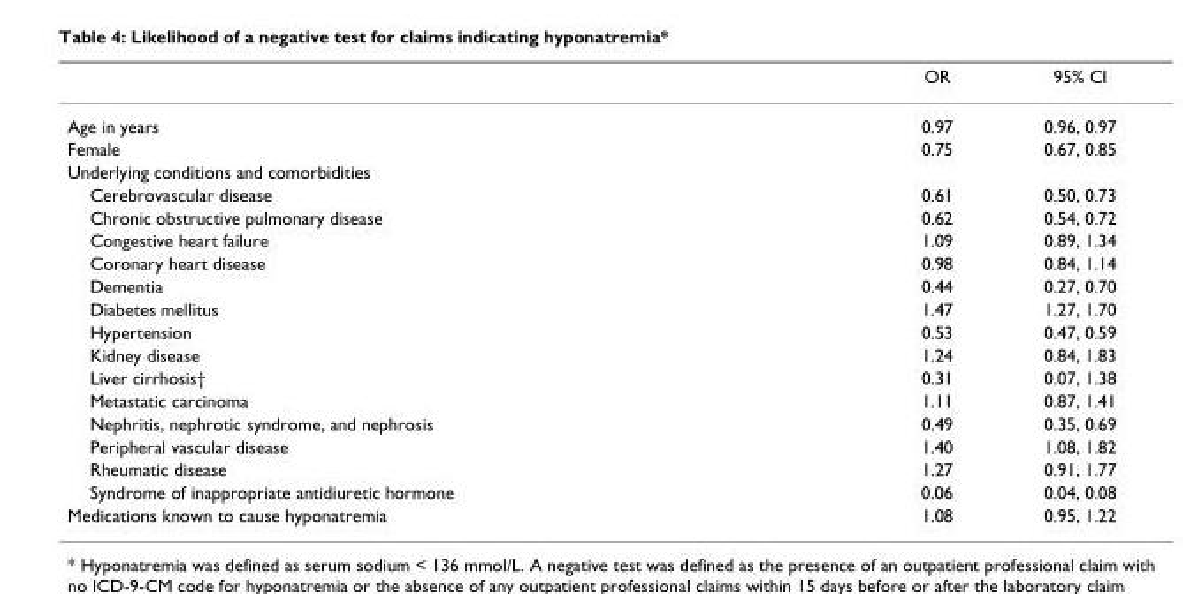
<table><thead><tr><td></td><td>OR</td><td>95% CI</td></tr></thead><tbody><tr><td>Age in years</td><td>0.97</td><td>0.96, 0.97</td></tr><tr><td>Female</td><td>0.75</td><td>0.67, 0.85</td></tr><tr><td colspan="3">Underlying conditions and comorbidities</td></tr><tr><td>Cerebrovascular disease</td><td>0.61</td><td>0.50, 0.73</td></tr><tr><td>Chronic obstructive pulmonary disease</td><td>0.62</td><td>0.54, 0.72</td></tr><tr><td>Congestive heart failure</td><td>1.09</td><td>0.89, 1.34</td></tr><tr><td>Coronary heart disease</td><td>0.98</td><td>0.84, 1.14</td></tr><tr><td>Dementia</td><td>0.44</td><td>0.27, 0.70</td></tr><tr><td>Diabetes mellitus</td><td>1.47</td><td>1.27, 1.70</td></tr><tr><td>Hypertension</td><td>0.53</td><td>0.47, 0.59</td></tr><tr><td>Kidney disease</td><td>1.24</td><td>0.84, 1.83</td></tr><tr><td>Liver cirrhosis†</td><td>0.31</td><td>0.07, 1.38</td></tr><tr><td>Metastatic carcinoma</td><td>1.11</td><td>0.87, 1.41</td></tr><tr><td>Nephritis, nephrotic syndrome, and nephrosis</td><td>0.49</td><td>0.35, 0.69</td></tr><tr><td>Peripheral vascular disease</td><td>1.40</td><td>1.08, 1.82</td></tr><tr><td>Rheumatic disease</td><td>1.27</td><td>0.91, 1.77</td></tr><tr><td>Syndrome of inappropriate antidiuretic hormone</td><td>0.06</td><td>0.04, 0.08</td></tr><tr><td>Medications known to cause hyponatremia</td><td>1.08</td><td>0.95, 1.22</td></tr></tbody></table>